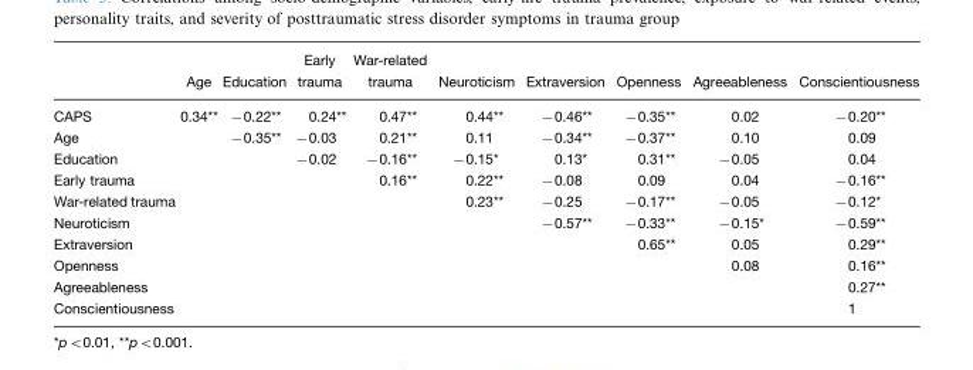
<table><thead><tr><td></td><td>Age</td><td>Education</td><td>Early trauma</td><td>War-related trauma</td><td>Neuroticism</td><td>Extraversion</td><td>Openness</td><td>Agreeableness</td><td>Conscientiousness</td></tr></thead><tbody><tr><td>CAPS</td><td>0.34**</td><td>−0.22**</td><td>0.24**</td><td>0.47**</td><td>0.44**</td><td>−0.46**</td><td>−0.35**</td><td>0.02</td><td>−0.20**</td></tr><tr><td>Age</td><td></td><td>−0.35**</td><td>−0.03</td><td>0.21**</td><td>0.11</td><td>−0.34**</td><td>−0.37**</td><td>0.10</td><td>0.09</td></tr><tr><td>Education</td><td></td><td></td><td>−0.02</td><td>−0.16**</td><td>−0.15*</td><td>0.13*</td><td>0.31**</td><td>−0.05</td><td>0.04</td></tr><tr><td>Early trauma</td><td></td><td></td><td></td><td>0.16**</td><td>0.22**</td><td>−0.08</td><td>0.09</td><td>0.04</td><td>−0.16**</td></tr><tr><td>War-related trauma</td><td></td><td></td><td></td><td></td><td>0.23**</td><td>−0.25</td><td>−0.17**</td><td>−0.05</td><td>−0.12*</td></tr><tr><td>Neuroticism</td><td></td><td></td><td></td><td></td><td></td><td>−0.57**</td><td>−0.33**</td><td>−0.15*</td><td>−0.59**</td></tr><tr><td>Extraversion</td><td></td><td></td><td></td><td></td><td></td><td></td><td>0.65**</td><td>0.05</td><td>0.29**</td></tr><tr><td>Openness</td><td></td><td></td><td></td><td></td><td></td><td></td><td></td><td>0.08</td><td>0.16**</td></tr><tr><td>Agreeableness</td><td></td><td></td><td></td><td></td><td></td><td></td><td></td><td></td><td>0.27**</td></tr><tr><td>Conscientiousness</td><td></td><td></td><td></td><td></td><td></td><td></td><td></td><td></td><td>1</td></tr></tbody></table>